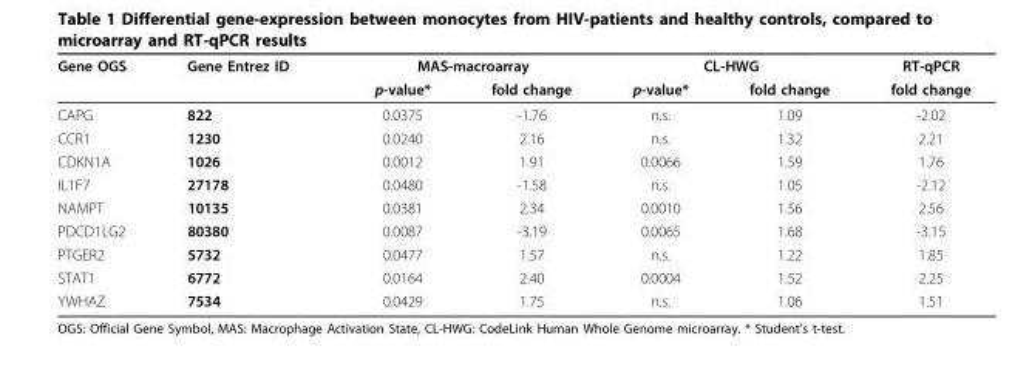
<table><thead><tr><td rowspan="2">Gene OGS</td><td rowspan="2">Gene Entrez ID</td><td colspan="2">MAS-macroarray</td><td colspan="2">CL-HWG</td><td rowspan="2">RT-qPCR fold change</td></tr><tr><td>p-value*</td><td>fold change</td><td>p-value*</td><td>fold change</td></tr></thead><tbody><tr><td>CAPG</td><td>822</td><td>0.0375</td><td>-1.76</td><td>n.s.</td><td>1.09</td><td>-2.02</td></tr><tr><td>CCR1</td><td>1230</td><td>0.0240</td><td>2.16</td><td>n.s.</td><td>1.32</td><td>2.21</td></tr><tr><td>CDKN1A</td><td>1026</td><td>0.0012</td><td>1.91</td><td>0.0066</td><td>1.59</td><td>1.76</td></tr><tr><td>IL1F7</td><td>27178</td><td>0.0480</td><td>-1.58</td><td>n.s.</td><td>1.05</td><td>-2.12</td></tr><tr><td>NAMPT</td><td>10135</td><td>0.0381</td><td>2.34</td><td>0.0010</td><td>1.56</td><td>2.56</td></tr><tr><td>PDCD1LG2</td><td>80380</td><td>0.0087</td><td>-3.19</td><td>0.0065</td><td>1.68</td><td>-3.15</td></tr><tr><td>PTGER2</td><td>5732</td><td>0.0477</td><td>1.57</td><td>n.s.</td><td>1.22</td><td>1.85</td></tr><tr><td>STAT1</td><td>6772</td><td>0.0164</td><td>2.40</td><td>0.0004</td><td>1.52</td><td>2.25</td></tr><tr><td>YWHAZ</td><td>7534</td><td>0.0429</td><td>1.75</td><td>n.s.</td><td>1.06</td><td>1.51</td></tr></tbody></table>